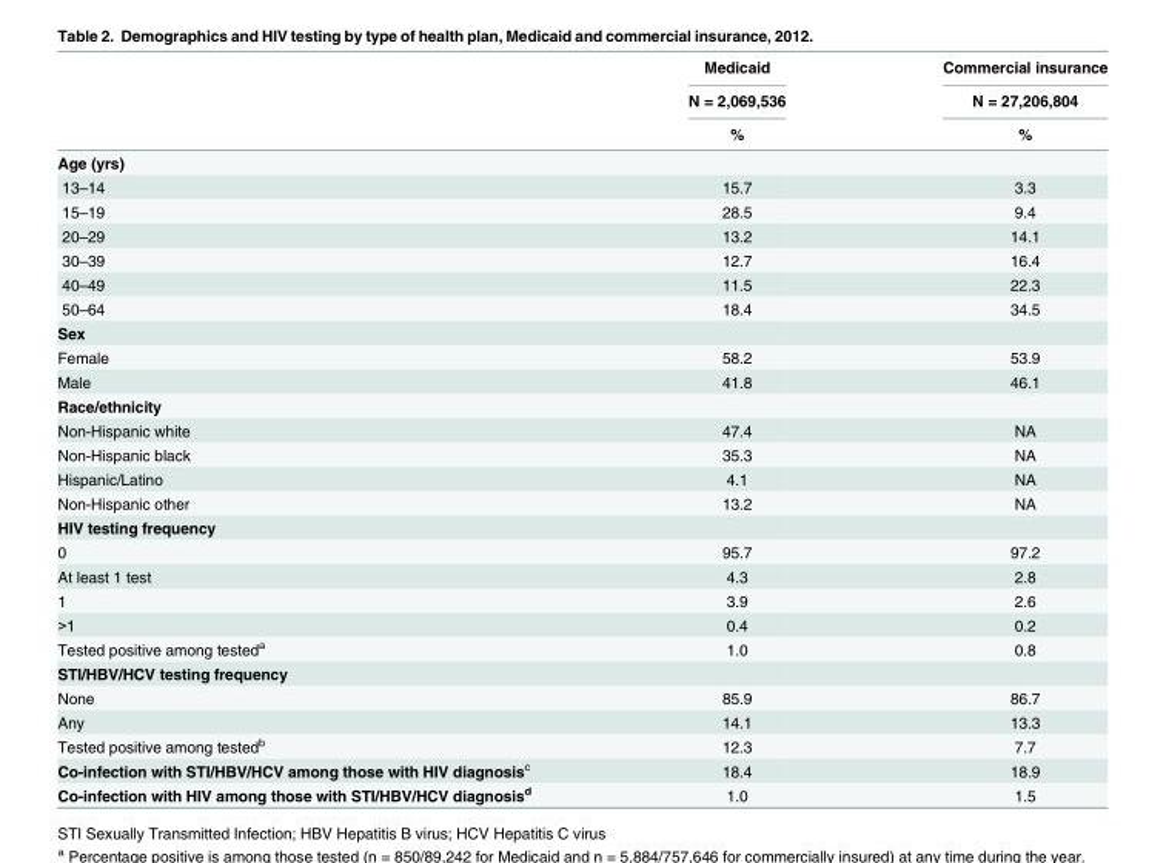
<table><thead><tr><td rowspan="3"></td><td rowspan="3">Medicaid N = 2,069,536 %</td><td rowspan="3">Commercial insurance N = 27,206,804 %</td></tr><tr></tr><tr></tr></thead><tbody><tr><td colspan="3">Age (yrs)</td></tr><tr><td>13–14</td><td>15.7</td><td>3.3</td></tr><tr><td>15–19</td><td>28.5</td><td>9.4</td></tr><tr><td>20–29</td><td>13.2</td><td>14.1</td></tr><tr><td>30–39</td><td>12.7</td><td>16.4</td></tr><tr><td>40–49</td><td>11.5</td><td>22.3</td></tr><tr><td>50–64</td><td>18.4</td><td>34.5</td></tr><tr><td colspan="3">Sex</td></tr><tr><td>Female</td><td>58.2</td><td>53.9</td></tr><tr><td>Male</td><td>41.8</td><td>46.1</td></tr><tr><td colspan="3">Race/ethnicity</td></tr><tr><td>Non-Hispanic white</td><td>47.4</td><td>NA</td></tr><tr><td>Non-Hispanic black</td><td>35.3</td><td>NA</td></tr><tr><td>Hispanic/Latino</td><td>4.1</td><td>NA</td></tr><tr><td>Non-Hispanic other</td><td>13.2</td><td>NA</td></tr><tr><td colspan="3">HIV testing frequency</td></tr><tr><td>0</td><td>95.7</td><td>97.2</td></tr><tr><td>At least 1 test</td><td>4.3</td><td>2.8</td></tr><tr><td>1</td><td>3.9</td><td>2.6</td></tr><tr><td>&gt;1</td><td>0.4</td><td>0.2</td></tr><tr><td>Tested positive among tested<sup>a</sup></td><td>1.0</td><td>0.8</td></tr><tr><td colspan="3">STI/HBV/HCV testing frequency</td></tr><tr><td>None</td><td>85.9</td><td>86.7</td></tr><tr><td>Any</td><td>14.1</td><td>13.3</td></tr><tr><td>Tested positive among tested<sup>b</sup></td><td>12.3</td><td>7.7</td></tr><tr><td>Co-infection with STI/HBV/HCV among those with HIV diagnosis<sup>c</sup></td><td>18.4</td><td>18.9</td></tr><tr><td>Co-infection with HIV among those with STI/HBV/HCV diagnosis<sup>d</sup></td><td>1.0</td><td>1.5</td></tr></tbody></table>